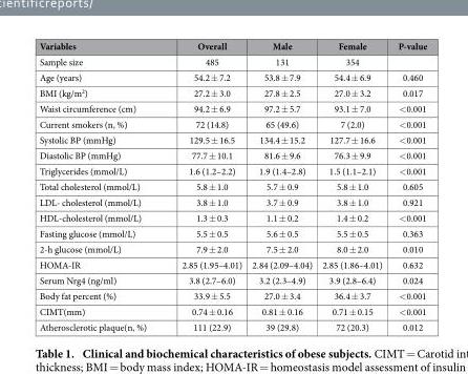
<table><thead><tr><td>Variables</td><td>Overall</td><td>Male</td><td>Female</td><td>P-value</td></tr></thead><tbody><tr><td>Sample size</td><td>485</td><td>131</td><td>354</td><td></td></tr><tr><td>Age (years)</td><td>54.2 ± 7.2</td><td>53.8 ± 7.9</td><td>54.4 ± 6.9</td><td>0.460</td></tr><tr><td>BMI (kg/m<sup>2</sup>)</td><td>27.2 ± 3.0</td><td>27.8 ± 2.5</td><td>27.0 ± 3.2</td><td>0.017</td></tr><tr><td>Waist circumference (cm)</td><td>94.2 ± 6.9</td><td>97.2 ± 5.7</td><td>93.1 ± 7.0</td><td>&lt; 0.001</td></tr><tr><td>Current smokers (n, %)</td><td>72 (14.8)</td><td>65 (49.6)</td><td>7 (2.0)</td><td>&lt; 0.001</td></tr><tr><td>Systolic BP (mmHg)</td><td>129.5 ± 16.5</td><td>134.4 ± 15.2</td><td>127.7 ± 16.6</td><td>&lt; 0.001</td></tr><tr><td>Diastolic BP (mmHg)</td><td>77.7 ± 10.1</td><td>81.6 ± 9.6</td><td>76.3 ± 9.9</td><td>&lt; 0.001</td></tr><tr><td>Triglycerides (mmol/L)</td><td>1.6 (1.2–2.2)</td><td>1.9 (1.4–2.8)</td><td>1.5 (1.1–2.1)</td><td>&lt; 0.001</td></tr><tr><td>Total cholesterol (mmol/L)</td><td>5.8 ± 1.0</td><td>5.7 ± 0.9</td><td>5.8 ± 1.0</td><td>0.605</td></tr><tr><td>LDL- cholesterol (mmol/L)</td><td>3.8 ± 1.0</td><td>3.7 ± 0.9</td><td>3.8 ± 1.0</td><td>0.921</td></tr><tr><td>HDL-cholesterol (mmol/L)</td><td>1.3 ± 0.3</td><td>1.1 ± 0.2</td><td>1.4 ± 0.2</td><td>&lt; 0.001</td></tr><tr><td>Fasting glucose (mmol/L)</td><td>5.5 ± 0.5</td><td>5.6 ± 0.5</td><td>5.5 ± 0.5</td><td>0.363</td></tr><tr><td>2-h glucose (mmol/L)</td><td>7.9 ± 2.0</td><td>7.5 ± 2.0</td><td>8.0 ± 2.0</td><td>0.010</td></tr><tr><td>HOMA-IR</td><td>2.85 (1.95–4.01)</td><td>2.84 (2.09–4.04)</td><td>2.85 (1.86–4.01)</td><td>0.632</td></tr><tr><td>Serum Nrg4 (ng/ml)</td><td>3.8 (2.7–6.0)</td><td>3.2 (2.3–4.9)</td><td>3.9 (2.8–6.4)</td><td>0.024</td></tr><tr><td>Body fat percent (%)</td><td>33.9 ± 5.5</td><td>27.0 ± 3.4</td><td>36.4 ± 3.7</td><td>&lt; 0.001</td></tr><tr><td>CIMT(mm)</td><td>0.74 ± 0.16</td><td>0.81 ± 0.16</td><td>0.71 ± 0.15</td><td>&lt; 0.001</td></tr><tr><td>Atherosclerotic plaque(n, %)</td><td>111 (22.9)</td><td>39 (29.8)</td><td>72 (20.3)</td><td>0.012</td></tr></tbody></table>